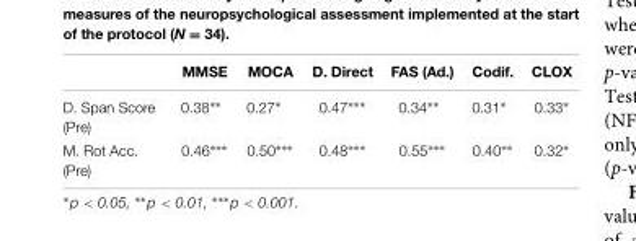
<table><thead><tr><td></td><td>MMSE</td><td>MOCA</td><td>D. Direct</td><td>FAS (Ad.)</td><td>Codif.</td><td>CLOX</td></tr></thead><tbody><tr><td>D. Span Score (Pre)</td><td>0.38∗∗</td><td>0.27∗</td><td>0.47∗∗∗</td><td>0.34∗∗</td><td>0.31∗</td><td>0.33∗</td></tr><tr><td>M. Rot Acc. (Pre)</td><td>0.46∗∗∗</td><td>0.50∗∗∗</td><td>0.48∗∗∗</td><td>0.55∗∗∗</td><td>0.40∗∗</td><td>0.32∗</td></tr></tbody></table>